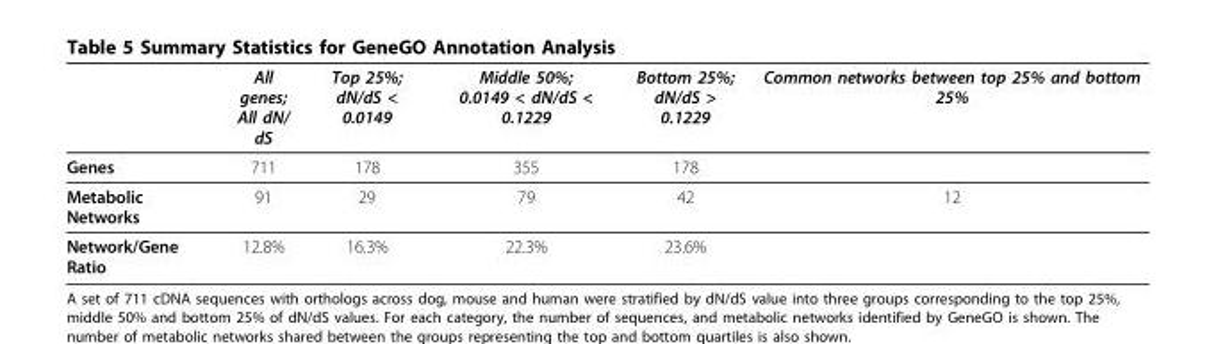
<table><thead><tr><td></td><td>All genes; All dN/ dS</td><td>Top 25%; dN/dS &lt; 0.0149</td><td>Middle 50%; 0.0149 &lt; dN/dS &lt; 0.1229</td><td>Bottom 25%; dN/dS &gt; 0.1229</td><td>Common networks between top 25% and bottom 25%</td></tr></thead><tbody><tr><td>Genes</td><td>711</td><td>178</td><td>355</td><td>178</td><td></td></tr><tr><td>Metabolic Networks</td><td>91</td><td>29</td><td>79</td><td>42</td><td>12</td></tr><tr><td>Network/Gene Ratio</td><td>12.8%</td><td>16.3%</td><td>22.3%</td><td>23.6%</td><td></td></tr></tbody></table>